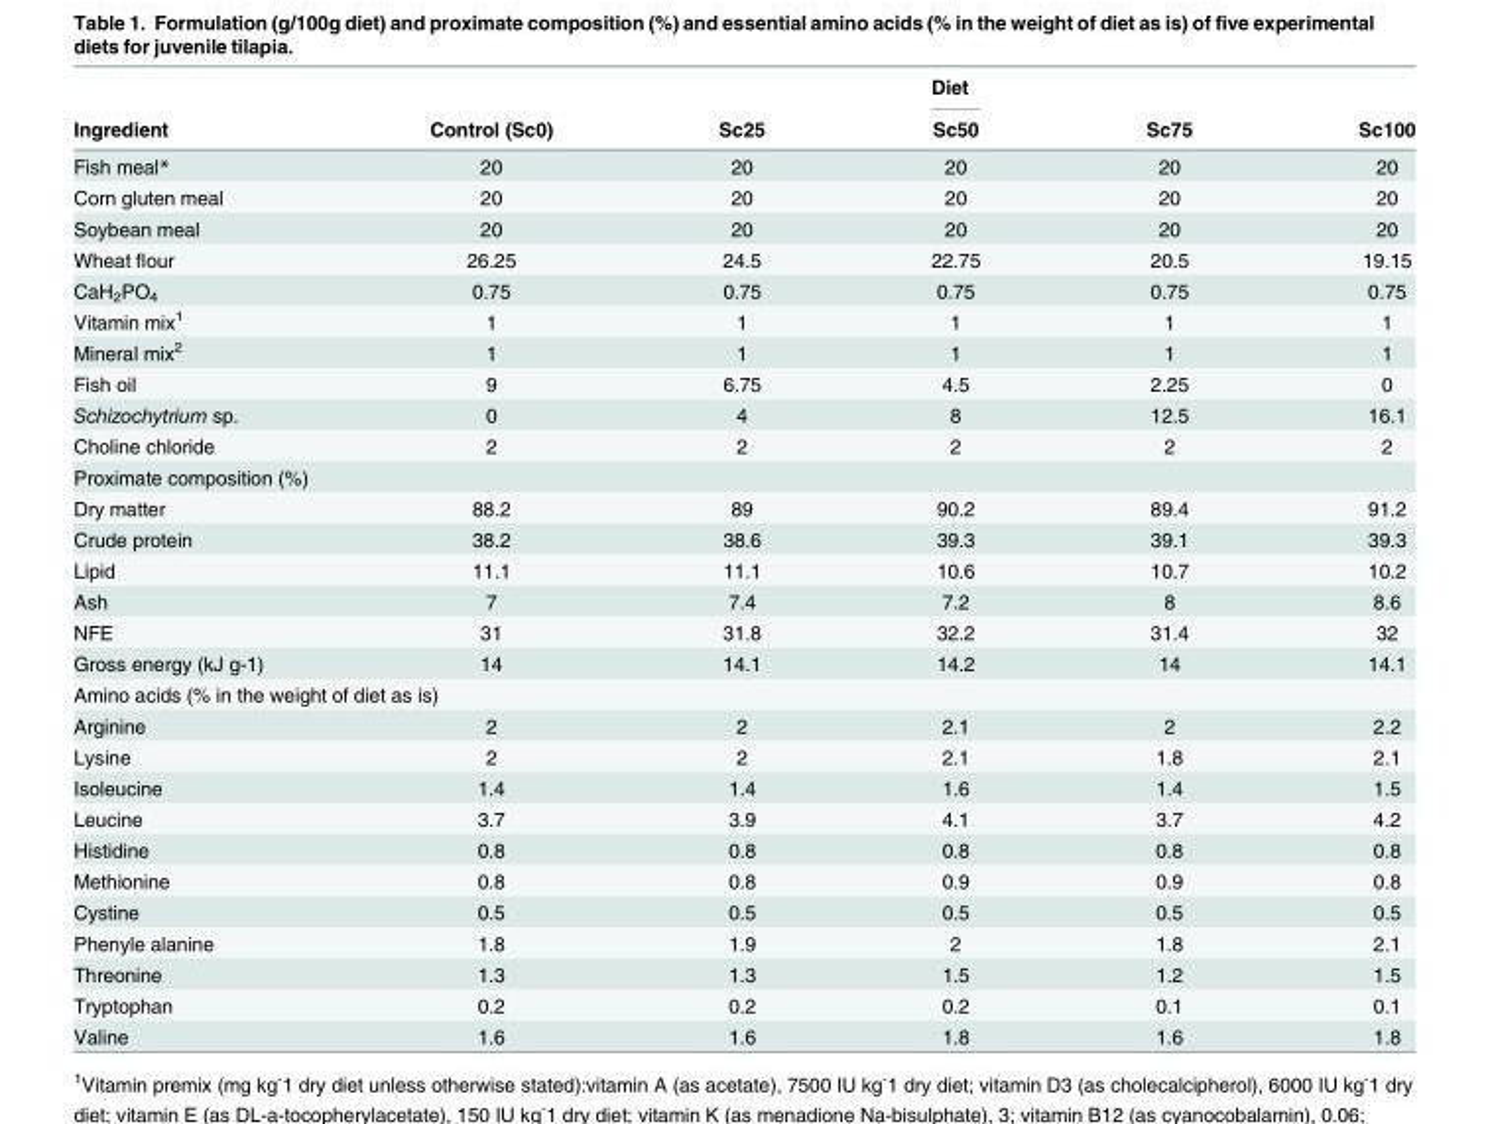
<table><thead><tr><td rowspan="2">Ingredient</td><td rowspan="2">Control (Sc0)</td><td rowspan="2">Sc25</td><td rowspan="2">Diet Sc50</td><td rowspan="2">Sc75</td><td rowspan="2">Sc100</td></tr><tr></tr></thead><tbody><tr><td>Fish meal*</td><td>20</td><td>20</td><td>20</td><td>20</td><td>20</td></tr><tr><td>Corn gluten meal</td><td>20</td><td>20</td><td>20</td><td>20</td><td>20</td></tr><tr><td>Soybean meal</td><td>20</td><td>20</td><td>20</td><td>20</td><td>20</td></tr><tr><td>Wheat flour</td><td>26.25</td><td>24.5</td><td>22.75</td><td>20.5</td><td>19.15</td></tr><tr><td>CaH<sub>2</sub>PO<sub>4</sub></td><td>0.75</td><td>0.75</td><td>0.75</td><td>0.75</td><td>0.75</td></tr><tr><td>Vitamin mix<sup>1</sup></td><td>1</td><td>1</td><td>1</td><td>1</td><td>1</td></tr><tr><td>Mineral mix<sup>2</sup></td><td>1</td><td>1</td><td>1</td><td>1</td><td>1</td></tr><tr><td>Fish oil</td><td>9</td><td>6.75</td><td>4.5</td><td>2.25</td><td>0</td></tr><tr><td>Schizochytrium sp.</td><td>0</td><td>4</td><td>8</td><td>12.5</td><td>16.1</td></tr><tr><td>Choline chloride</td><td>2</td><td>2</td><td>2</td><td>2</td><td>2</td></tr><tr><td colspan="6">Proximate composition (%)</td></tr><tr><td>Dry matter</td><td>88.2</td><td>89</td><td>90.2</td><td>89.4</td><td>91.2</td></tr><tr><td>Crude protein</td><td>38.2</td><td>38.6</td><td>39.3</td><td>39.1</td><td>39.3</td></tr><tr><td>Lipid</td><td>11.1</td><td>11.1</td><td>10.6</td><td>10.7</td><td>10.2</td></tr><tr><td>Ash</td><td>7</td><td>7.4</td><td>7.2</td><td>8</td><td>8.6</td></tr><tr><td>NFE</td><td>31</td><td>31.8</td><td>32.2</td><td>31.4</td><td>32</td></tr><tr><td>Gross energy (kJ g-1)</td><td>14</td><td>14.1</td><td>14.2</td><td>14</td><td>14.1</td></tr><tr><td colspan="6">Amino acids (% in the weight of diet as is)</td></tr><tr><td>Arginine</td><td>2</td><td>2</td><td>2.1</td><td>2</td><td>2.2</td></tr><tr><td>Lysine</td><td>2</td><td>2</td><td>2.1</td><td>1.8</td><td>2.1</td></tr><tr><td>Isoleucine</td><td>1.4</td><td>1.4</td><td>1.6</td><td>1.4</td><td>1.5</td></tr><tr><td>Leucine</td><td>3.7</td><td>3.9</td><td>4.1</td><td>3.7</td><td>4.2</td></tr><tr><td>Histidine</td><td>0.8</td><td>0.8</td><td>0.8</td><td>0.8</td><td>0.8</td></tr><tr><td>Methionine</td><td>0.8</td><td>0.8</td><td>0.9</td><td>0.9</td><td>0.8</td></tr><tr><td>Cystine</td><td>0.5</td><td>0.5</td><td>0.5</td><td>0.5</td><td>0.5</td></tr><tr><td>Phenyle alanine</td><td>1.8</td><td>1.9</td><td>2</td><td>1.8</td><td>2.1</td></tr><tr><td>Threonine</td><td>1.3</td><td>1.3</td><td>1.5</td><td>1.2</td><td>1.5</td></tr><tr><td>Tryptophan</td><td>0.2</td><td>0.2</td><td>0.2</td><td>0.1</td><td>0.1</td></tr><tr><td>Valine</td><td>1.6</td><td>1.6</td><td>1.8</td><td>1.6</td><td>1.8</td></tr></tbody></table>